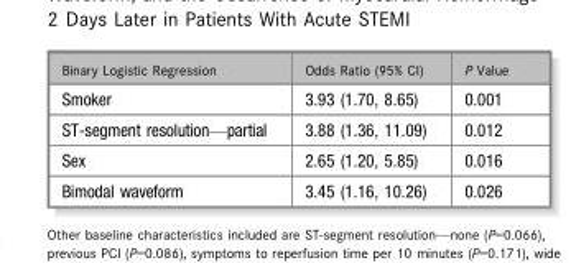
<table><thead><tr><td>Binary Logistic Regression</td><td>Odds Ratio (95% CI)</td><td>P Value</td></tr></thead><tbody><tr><td>Smoker</td><td>3.93 (1.70, 8.65)</td><td>0.001</td></tr><tr><td>ST-segment resolution—partial</td><td>3.88 (1.36, 11.09)</td><td>0.012</td></tr><tr><td>Sex</td><td>2.65 (1.20, 5.85)</td><td>0.016</td></tr><tr><td>Bimodal waveform</td><td>3.45 (1.16, 10.26)</td><td>0.026</td></tr></tbody></table>